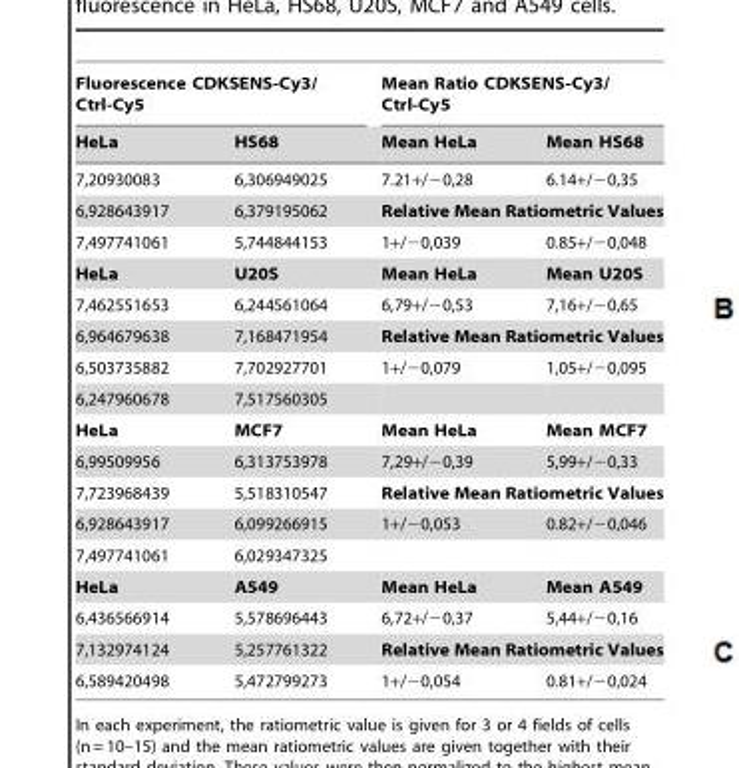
<table><thead><tr><td colspan="2">Fluorescence CDKSENS-Cy3/ Ctrl-Cy5</td><td colspan="2">Mean Ratio CDKSENS-Cy3/ Ctrl-Cy5</td></tr><tr><td>HeLa</td><td>HS68</td><td>Mean HeLa</td><td>Mean HS68</td></tr></thead><tbody><tr><td>7,20930083</td><td>6,306949025</td><td>7.21+/−0,28</td><td>6.14+/−0,35</td></tr><tr><td>6,928643917</td><td>6,379195062</td><td colspan="2">Relative Mean Ratiometric Values</td></tr><tr><td>7,497741061</td><td>5,744844153</td><td>1+/−0,039</td><td>0.85+/−0,048</td></tr><tr><td>HeLa</td><td>U20S</td><td>Mean HeLa</td><td>Mean U20S</td></tr><tr><td>7,462551653</td><td>6,244561064</td><td>6,79+/−0,53</td><td>7,16+/−0,65</td></tr><tr><td>6,964679638</td><td>7,168471954</td><td colspan="2">Relative Mean Ratiometric Values</td></tr><tr><td>6,503735882</td><td>7,702927701</td><td>1+/−0,079</td><td>1,05+/−0,095</td></tr><tr><td>6,247960678</td><td>7,517560305</td><td></td><td></td></tr><tr><td>HeLa</td><td>MCF7</td><td>Mean HeLa</td><td>Mean MCF7</td></tr><tr><td>6,99509956</td><td>6,313753978</td><td>7,29+/−0,39</td><td>5,99+/−0,33</td></tr><tr><td>7,723968439</td><td>5,518310547</td><td colspan="2">Relative Mean Ratiometric Values</td></tr><tr><td>6,928643917</td><td>6,099266915</td><td>1+/−0,053</td><td>0.82+/−0,046</td></tr><tr><td>7,497741061</td><td>6,029347325</td><td></td><td></td></tr><tr><td>HeLa</td><td>A549</td><td>Mean HeLa</td><td>Mean A549</td></tr><tr><td>6,436566914</td><td>5,578696443</td><td>6,72+/−0,37</td><td>5,44+/−0,16</td></tr><tr><td>7,132974124</td><td>5,257761322</td><td colspan="2">Relative Mean Ratiometric Values</td></tr><tr><td>6,589420498</td><td>5,472799273</td><td>1+/−0,054</td><td>0.81+/−0,024</td></tr></tbody></table>